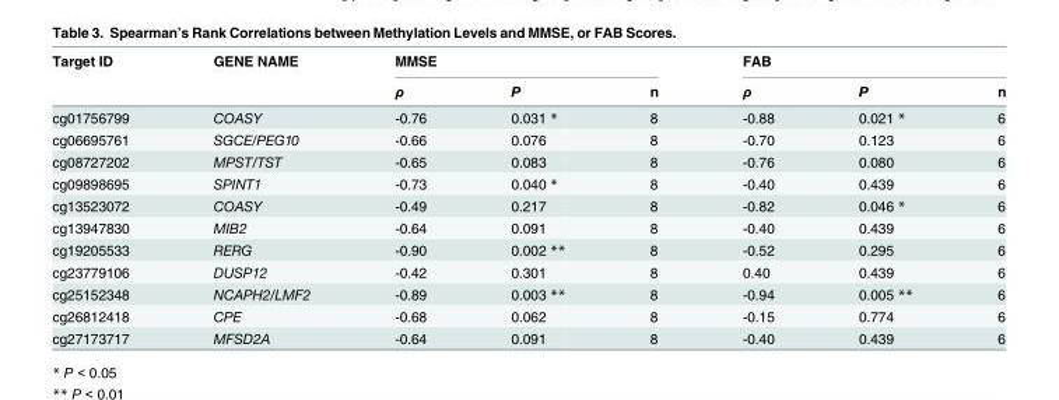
<table><thead><tr><td rowspan="2">Target ID</td><td rowspan="2">GENE NAME</td><td colspan="3">MMSE</td><td colspan="3">FAB</td></tr><tr><td>ρ</td><td>P</td><td>n</td><td>ρ</td><td>P</td><td>n</td></tr></thead><tbody><tr><td>cg01756799</td><td>COASY</td><td>-0.76</td><td>0.031 *</td><td>8</td><td>-0.88</td><td>0.021 *</td><td>6</td></tr><tr><td>cg06695761</td><td>SGCE/PEG10</td><td>-0.66</td><td>0.076</td><td>8</td><td>-0.70</td><td>0.123</td><td>6</td></tr><tr><td>cg08727202</td><td>MPST/TST</td><td>-0.65</td><td>0.083</td><td>8</td><td>-0.76</td><td>0.080</td><td>6</td></tr><tr><td>cg09898695</td><td>SPINT1</td><td>-0.73</td><td>0.040 *</td><td>8</td><td>-0.40</td><td>0.439</td><td>6</td></tr><tr><td>cg13523072</td><td>COASY</td><td>-0.49</td><td>0.217</td><td>8</td><td>-0.82</td><td>0.046 *</td><td>6</td></tr><tr><td>cg13947830</td><td>MIB2</td><td>-0.64</td><td>0.091</td><td>8</td><td>-0.40</td><td>0.439</td><td>6</td></tr><tr><td>cg19205533</td><td>RERG</td><td>-0.90</td><td>0.002 **</td><td>8</td><td>-0.52</td><td>0.295</td><td>6</td></tr><tr><td>cg23779106</td><td>DUSP12</td><td>-0.42</td><td>0.301</td><td>8</td><td>0.40</td><td>0.439</td><td>6</td></tr><tr><td>cg25152348</td><td>NCAPH2/LMF2</td><td>-0.89</td><td>0.003 **</td><td>8</td><td>-0.94</td><td>0.005 **</td><td>6</td></tr><tr><td>cg26812418</td><td>CPE</td><td>-0.68</td><td>0.062</td><td>8</td><td>-0.15</td><td>0.774</td><td>6</td></tr><tr><td>cg27173717</td><td>MFSD2A</td><td>-0.64</td><td>0.091</td><td>8</td><td>-0.40</td><td>0.439</td><td>6</td></tr></tbody></table>